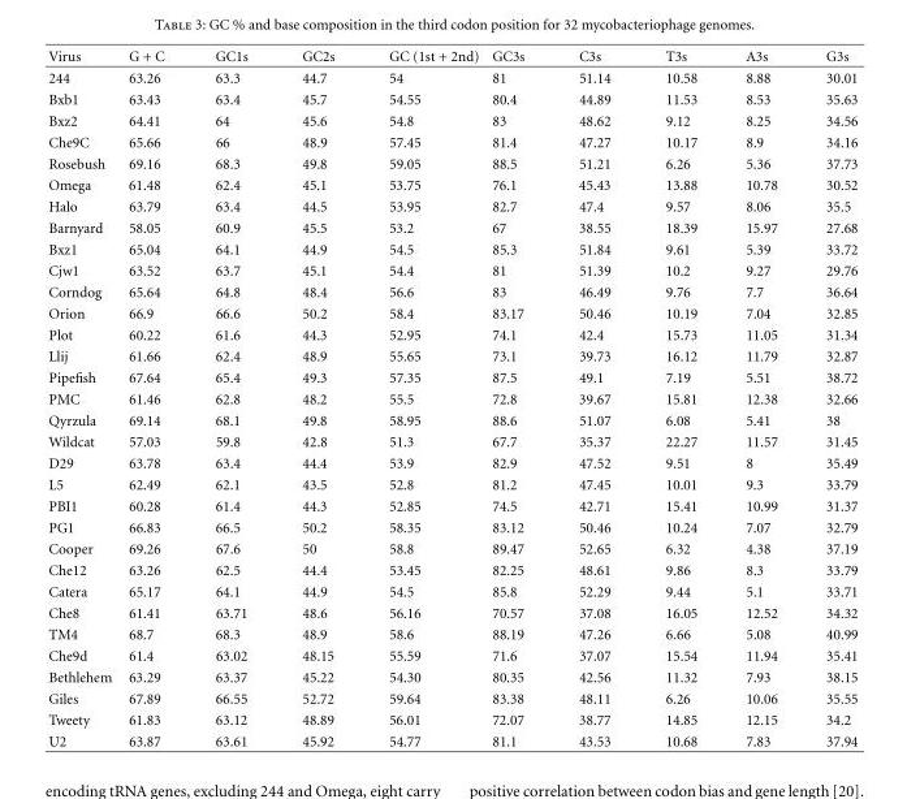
<table><thead><tr><td>Virus</td><td>G + C</td><td>GC1s</td><td>GC2s</td><td>GC (1st + 2nd)</td><td>GC3s</td><td>C3s</td><td>T3s</td><td>A3s</td><td>G3s</td></tr></thead><tbody><tr><td>244</td><td>63.26</td><td>63.3</td><td>44.7</td><td>54</td><td>81</td><td>51.14</td><td>10.58</td><td>8.88</td><td>30.01</td></tr><tr><td>Bxb1</td><td>63.43</td><td>63.4</td><td>45.7</td><td>54.55</td><td>80.4</td><td>44.89</td><td>11.53</td><td>8.53</td><td>35.63</td></tr><tr><td>Bxz2</td><td>64.41</td><td>64</td><td>45.6</td><td>54.8</td><td>83</td><td>48.62</td><td>9.12</td><td>8.25</td><td>34.56</td></tr><tr><td>Che9C</td><td>65.66</td><td>66</td><td>48.9</td><td>57.45</td><td>81.4</td><td>47.27</td><td>10.17</td><td>8.9</td><td>34.16</td></tr><tr><td>Rosebush</td><td>69.16</td><td>68.3</td><td>49.8</td><td>59.05</td><td>88.5</td><td>51.21</td><td>6.26</td><td>5.36</td><td>37.73</td></tr><tr><td>Omega</td><td>61.48</td><td>62.4</td><td>45.1</td><td>53.75</td><td>76.1</td><td>45.43</td><td>13.88</td><td>10.78</td><td>30.52</td></tr><tr><td>Halo</td><td>63.79</td><td>63.4</td><td>44.5</td><td>53.95</td><td>82.7</td><td>47.4</td><td>9.57</td><td>8.06</td><td>35.5</td></tr><tr><td>Barnyard</td><td>58.05</td><td>60.9</td><td>45.5</td><td>53.2</td><td>67</td><td>38.55</td><td>18.39</td><td>15.97</td><td>27.68</td></tr><tr><td>Bxz1</td><td>65.04</td><td>64.1</td><td>44.9</td><td>54.5</td><td>85.3</td><td>51.84</td><td>9.61</td><td>5.39</td><td>33.72</td></tr><tr><td>Cjw1</td><td>63.52</td><td>63.7</td><td>45.1</td><td>54.4</td><td>81</td><td>51.39</td><td>10.2</td><td>9.27</td><td>29.76</td></tr><tr><td>Corndog</td><td>65.64</td><td>64.8</td><td>48.4</td><td>56.6</td><td>83</td><td>46.49</td><td>9.76</td><td>7.7</td><td>36.64</td></tr><tr><td>Orion</td><td>66.9</td><td>66.6</td><td>50.2</td><td>58.4</td><td>83.17</td><td>50.46</td><td>10.19</td><td>7.04</td><td>32.85</td></tr><tr><td>Plot</td><td>60.22</td><td>61.6</td><td>44.3</td><td>52.95</td><td>74.1</td><td>42.4</td><td>15.73</td><td>11.05</td><td>31.34</td></tr><tr><td>Llij</td><td>61.66</td><td>62.4</td><td>48.9</td><td>55.65</td><td>73.1</td><td>39.73</td><td>16.12</td><td>11.79</td><td>32.87</td></tr><tr><td>Pipefish</td><td>67.64</td><td>65.4</td><td>49.3</td><td>57.35</td><td>87.5</td><td>49.1</td><td>7.19</td><td>5.51</td><td>38.72</td></tr><tr><td>PMC</td><td>61.46</td><td>62.8</td><td>48.2</td><td>55.5</td><td>72.8</td><td>39.67</td><td>15.81</td><td>12.38</td><td>32.66</td></tr><tr><td>Qyrzula</td><td>69.14</td><td>68.1</td><td>49.8</td><td>58.95</td><td>88.6</td><td>51.07</td><td>6.08</td><td>5.41</td><td>38</td></tr><tr><td>Wildcat</td><td>57.03</td><td>59.8</td><td>42.8</td><td>51.3</td><td>67.7</td><td>35.37</td><td>22.27</td><td>11.57</td><td>31.45</td></tr><tr><td>D29</td><td>63.78</td><td>63.4</td><td>44.4</td><td>53.9</td><td>82.9</td><td>47.52</td><td>9.51</td><td>8</td><td>35.49</td></tr><tr><td>L5</td><td>62.49</td><td>62.1</td><td>43.5</td><td>52.8</td><td>81.2</td><td>47.45</td><td>10.01</td><td>9.3</td><td>33.79</td></tr><tr><td>PBI1</td><td>60.28</td><td>61.4</td><td>44.3</td><td>52.85</td><td>74.5</td><td>42.71</td><td>15.41</td><td>10.99</td><td>31.37</td></tr><tr><td>PG1</td><td>66.83</td><td>66.5</td><td>50.2</td><td>58.35</td><td>83.12</td><td>50.46</td><td>10.24</td><td>7.07</td><td>32.79</td></tr><tr><td>Cooper</td><td>69.26</td><td>67.6</td><td>50</td><td>58.8</td><td>89.47</td><td>52.65</td><td>6.32</td><td>4.38</td><td>37.19</td></tr><tr><td>Che12</td><td>63.26</td><td>62.5</td><td>44.4</td><td>53.45</td><td>82.25</td><td>48.61</td><td>9.86</td><td>8.3</td><td>33.79</td></tr><tr><td>Catera</td><td>65.17</td><td>64.1</td><td>44.9</td><td>54.5</td><td>85.8</td><td>52.29</td><td>9.44</td><td>5.1</td><td>33.71</td></tr><tr><td>Che8</td><td>61.41</td><td>63.71</td><td>48.6</td><td>56.16</td><td>70.57</td><td>37.08</td><td>16.05</td><td>12.52</td><td>34.32</td></tr><tr><td>TM4</td><td>68.7</td><td>68.3</td><td>48.9</td><td>58.6</td><td>88.19</td><td>47.26</td><td>6.66</td><td>5.08</td><td>40.99</td></tr><tr><td>Che9d</td><td>61.4</td><td>63.02</td><td>48.15</td><td>55.59</td><td>71.6</td><td>37.07</td><td>15.54</td><td>11.94</td><td>35.41</td></tr><tr><td>Bethlehem</td><td>63.29</td><td>63.37</td><td>45.22</td><td>54.30</td><td>80.35</td><td>42.56</td><td>11.32</td><td>7.93</td><td>38.15</td></tr><tr><td>Giles</td><td>67.89</td><td>66.55</td><td>52.72</td><td>59.64</td><td>83.38</td><td>48.11</td><td>6.26</td><td>10.06</td><td>35.55</td></tr><tr><td>Tweety</td><td>61.83</td><td>63.12</td><td>48.89</td><td>56.01</td><td>72.07</td><td>38.77</td><td>14.85</td><td>12.15</td><td>34.2</td></tr><tr><td>U2</td><td>63.87</td><td>63.61</td><td>45.92</td><td>54.77</td><td>81.1</td><td>43.53</td><td>10.68</td><td>7.83</td><td>37.94</td></tr></tbody></table>